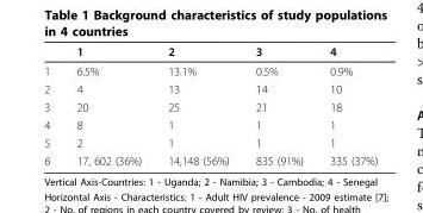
<table><thead><tr><td></td><td>1</td><td>2</td><td>3</td><td>4</td></tr></thead><tbody><tr><td>1</td><td>6.5%</td><td>13.1%</td><td>0.5%</td><td>0.9%</td></tr><tr><td>2</td><td>4</td><td>13</td><td>14</td><td>10</td></tr><tr><td>3</td><td>20</td><td>25</td><td>21</td><td>18</td></tr><tr><td>4</td><td>8</td><td>1</td><td>1</td><td>1</td></tr><tr><td>5</td><td>2</td><td>1</td><td>1</td><td>1</td></tr><tr><td>6</td><td>17, 602 (36%)</td><td>14,148 (56%)</td><td>835 (91%)</td><td>335 (37%)</td></tr></tbody></table>